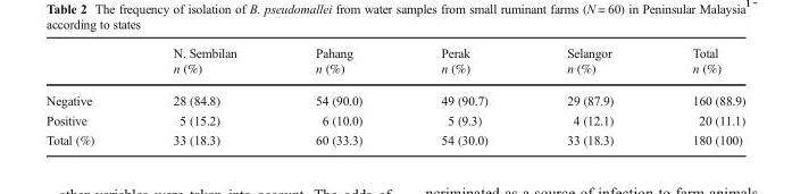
<table><thead><tr><td></td><td>N. Sembilan n (%)</td><td>Pahang n (%)</td><td>Perak n (%)</td><td>Selangor n (%)</td><td>Total n (%)</td></tr></thead><tbody><tr><td>Negative</td><td>28 (84.8)</td><td>54 (90.0)</td><td>49 (90.7)</td><td>29 (87.9)</td><td>160 (88.9)</td></tr><tr><td>Positive</td><td>5 (15.2)</td><td>6 (10.0)</td><td>5 (9.3)</td><td>4 (12.1)</td><td>20 (11.1)</td></tr><tr><td>Total (%)</td><td>33 (18.3)</td><td>60 (33.3)</td><td>54 (30.0)</td><td>33 (18.3)</td><td>180 (100)</td></tr></tbody></table>